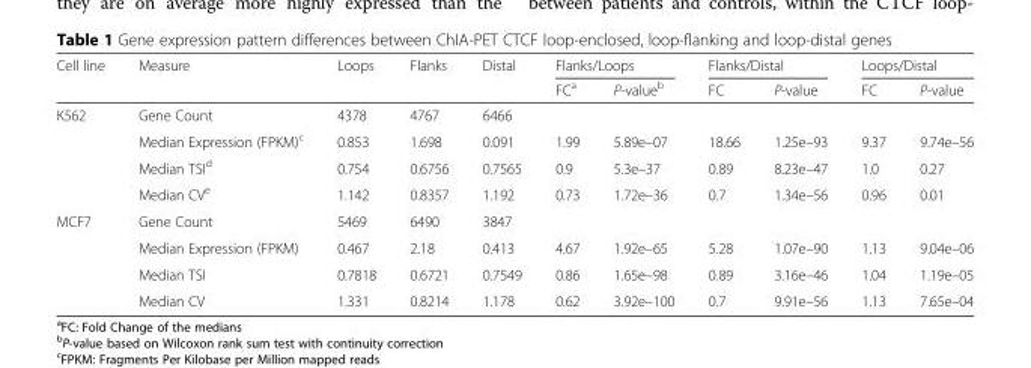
<table><thead><tr><td rowspan="2">Cell line</td><td rowspan="2">Measure</td><td rowspan="2">Loops</td><td rowspan="2">Flanks</td><td rowspan="2">Distal</td><td colspan="2">Flanks/Loops</td><td colspan="2">Flanks/Distal</td><td colspan="2">Loops/Distal</td></tr><tr><td>FC<sup>a</sup></td><td>P-value<sup>b</sup></td><td>FC</td><td>P-value</td><td>FC</td><td>P-value</td></tr></thead><tbody><tr><td rowspan="4">K562</td><td>Gene Count</td><td>4378</td><td>4767</td><td>6466</td><td colspan="6"></td></tr><tr><td>Median Expression (FPKM)<sup>c</sup></td><td>0.853</td><td>1.698</td><td>0.091</td><td>1.99</td><td>5.89e–07</td><td>18.66</td><td>1.25e–93</td><td>9.37</td><td>9.74e–56</td></tr><tr><td>Median TSI<sup>d</sup></td><td>0.754</td><td>0.6756</td><td>0.7565</td><td>0.9</td><td>5.3e–37</td><td>0.89</td><td>8.23e–47</td><td>1.0</td><td>0.27</td></tr><tr><td>Median CV<sup>e</sup></td><td>1.142</td><td>0.8357</td><td>1.192</td><td>0.73</td><td>1.72e–36</td><td>0.7</td><td>1.34e–56</td><td>0.96</td><td>0.01</td></tr><tr><td rowspan="4">MCF7</td><td>Gene Count</td><td>5469</td><td>6490</td><td>3847</td><td colspan="6"></td></tr><tr><td>Median Expression (FPKM)</td><td>0.467</td><td>2.18</td><td>0.413</td><td>4.67</td><td>1.92e–65</td><td>5.28</td><td>1.07e–90</td><td>1.13</td><td>9.04e–06</td></tr><tr><td>Median TSI</td><td>0.7818</td><td>0.6721</td><td>0.7549</td><td>0.86</td><td>1.65e–98</td><td>0.89</td><td>3.16e–46</td><td>1.04</td><td>1.19e–05</td></tr><tr><td>Median CV</td><td>1.331</td><td>0.8214</td><td>1.178</td><td>0.62</td><td>3.92e–100</td><td>0.7</td><td>9.91e–56</td><td>1.13</td><td>7.65e–04</td></tr></tbody></table>